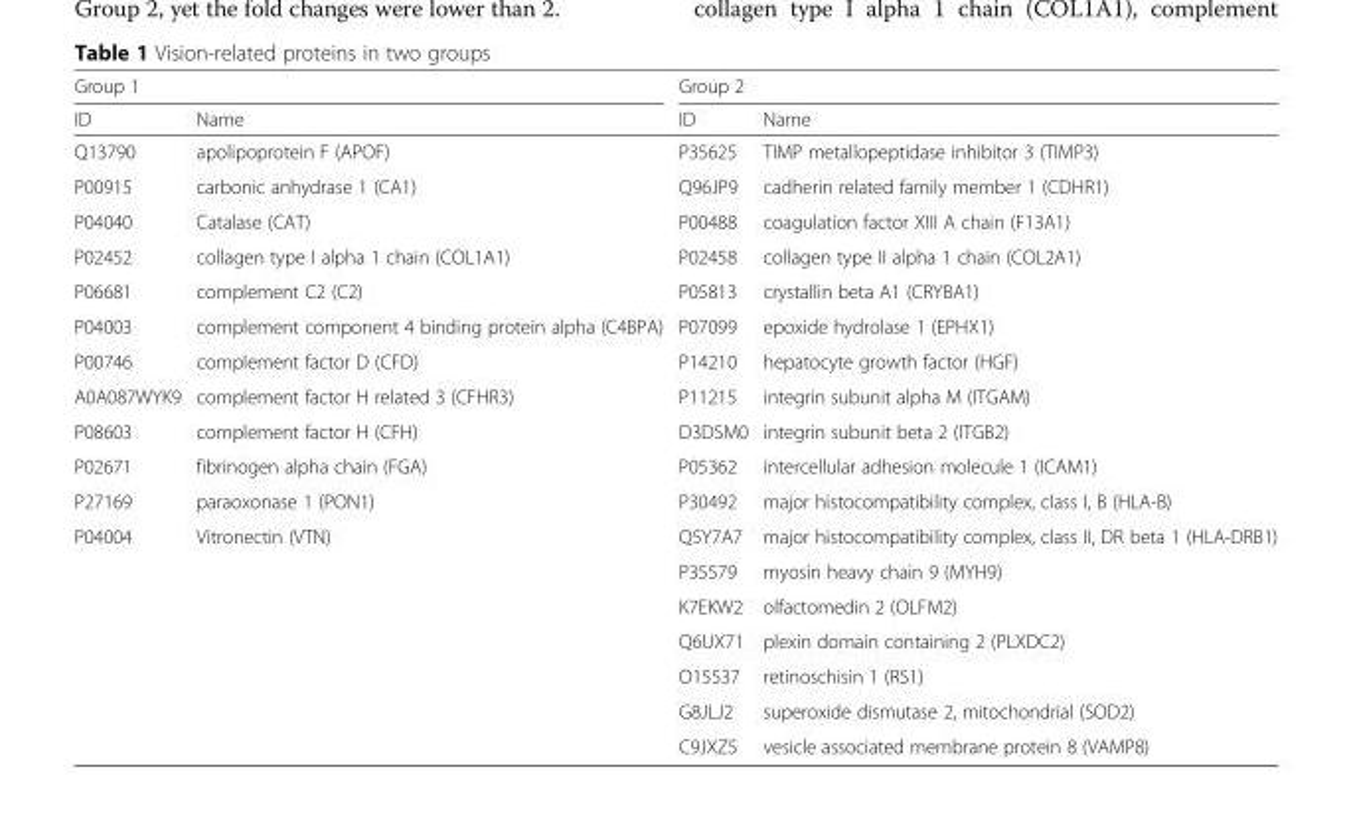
<table><thead><tr><td colspan="2">Group 1</td><td colspan="2">Group 2</td></tr><tr><td>ID</td><td>Name</td><td>ID</td><td>Name</td></tr></thead><tbody><tr><td>Q13790</td><td>apolipoprotein F (APOF)</td><td>P35625</td><td>TIMP metallopeptidase inhibitor 3 (TIMP3)</td></tr><tr><td>P00915</td><td>carbonic anhydrase 1 (CA1)</td><td>Q96JP9</td><td>cadherin related family member 1 (CDHR1)</td></tr><tr><td>P04040</td><td>Catalase (CAT)</td><td>P00488</td><td>coagulation factor XIII A chain (F13A1)</td></tr><tr><td>P02452</td><td>collagen type I alpha 1 chain (COL1A1)</td><td>P02458</td><td>collagen type II alpha 1 chain (COL2A1)</td></tr><tr><td>P06681</td><td>complement C2 (C2)</td><td>P05813</td><td>crystallin beta A1 (CRYBA1)</td></tr><tr><td>P04003</td><td>complement component 4 binding protein alpha (C4BPA)</td><td>P07099</td><td>epoxide hydrolase 1 (EPHX1)</td></tr><tr><td>P00746</td><td>complement factor D (CFD)</td><td>P14210</td><td>hepatocyte growth factor (HGF)</td></tr><tr><td>A0A087WYK9</td><td>complement factor H related 3 (CFHR3)</td><td>P11215</td><td>integrin subunit alpha M (ITGAM)</td></tr><tr><td>P08603</td><td>complement factor H (CFH)</td><td>D3DSM0</td><td>integrin subunit beta 2 (ITGB2)</td></tr><tr><td>P02671</td><td>fibrinogen alpha chain (FGA)</td><td>P05362</td><td>intercellular adhesion molecule 1 (ICAM1)</td></tr><tr><td>P27169</td><td>paraoxonase 1 (PON1)</td><td>P30492</td><td>major histocompatibility complex, class I, B (HLA-B)</td></tr><tr><td rowspan="7">P04004</td><td>Vitronectin (VTN)</td><td>Q5Y7A7</td><td>major histocompatibility complex, class II, DR beta 1 (HLA-DRB1)</td></tr><tr><td></td><td>P35579</td><td>myosin heavy chain 9 (MYH9)</td></tr><tr><td></td><td>K7EKW2</td><td>olfactomedin 2 (OLFM2)</td></tr><tr><td></td><td>Q6UX71</td><td>plexin domain containing 2 (PLXDC2)</td></tr><tr><td></td><td>O15537</td><td>retinoschisin 1 (RS1)</td></tr><tr><td></td><td>G8JLJ2</td><td>superoxide dismutase 2, mitochondrial (SOD2)</td></tr><tr><td></td><td>C9JXZ5</td><td>vesicle associated membrane protein 8 (VAMP8)</td></tr></tbody></table>